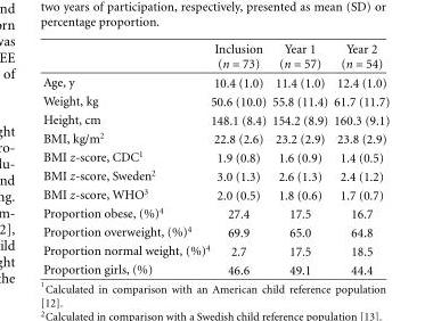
<table><thead><tr><td></td><td>Inclusion (n = 73)</td><td>Year 1 (n = 57)</td><td>Year 2 (n = 54)</td></tr></thead><tbody><tr><td>Age, y</td><td>10.4 (1.0)</td><td>11.4 (1.0)</td><td>12.4 (1.0)</td></tr><tr><td>Weight, kg</td><td>50.6 (10.0)</td><td>55.8 (11.4)</td><td>61.7 (11.7)</td></tr><tr><td>Height, cm</td><td>148.1 (8.4)</td><td>154.2 (8.9)</td><td>160.3 (9.1)</td></tr><tr><td>BMI, kg/m<sup>2</sup></td><td>22.8 (2.6)</td><td>23.2 (2.9)</td><td>23.8 (2.9)</td></tr><tr><td>BMI z-score, CDC<sup>1</sup></td><td>1.9 (0.8)</td><td>1.6 (0.9)</td><td>1.4 (0.5)</td></tr><tr><td>BMI z-score, Sweden<sup>2</sup></td><td>3.0 (1.3)</td><td>2.6 (1.3)</td><td>2.4 (1.2)</td></tr><tr><td>BMI z-score, WHO<sup>3</sup></td><td>2.0 (0.5)</td><td>1.8 (0.6)</td><td>1.7 (0.7)</td></tr><tr><td>Proportion obese, (%)<sup>4</sup></td><td>27.4</td><td>17.5</td><td>16.7</td></tr><tr><td>Proportion overweight, (%)<sup>4</sup></td><td>69.9</td><td>65.0</td><td>64.8</td></tr><tr><td>Proportion normal weight, (%)<sup>4</sup></td><td>2.7</td><td>17.5</td><td>18.5</td></tr><tr><td>Proportion girls, (%)</td><td>46.6</td><td>49.1</td><td>44.4</td></tr></tbody></table>